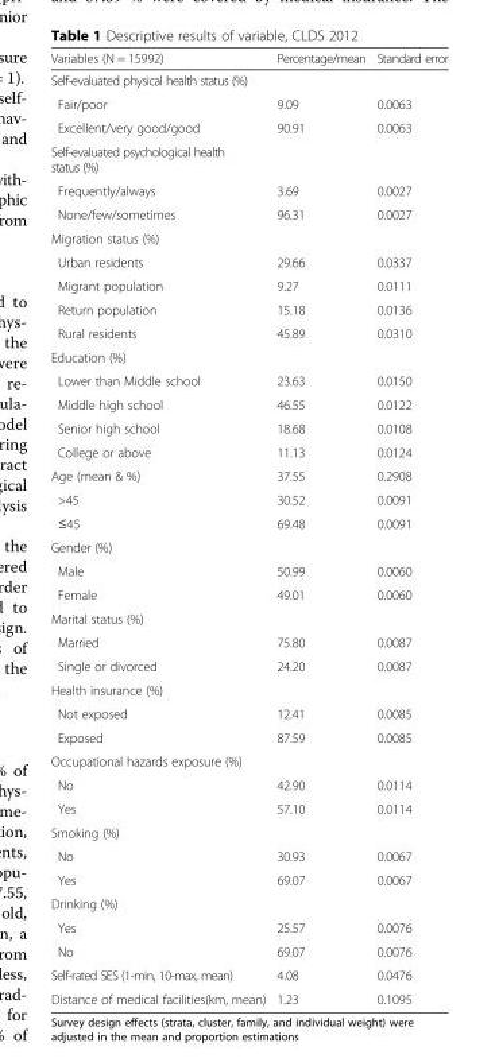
<table><thead><tr><td>Variables (N = 15992)</td><td>Percentage/mean</td><td>Standard error</td></tr></thead><tbody><tr><td colspan="3">Self-evaluated physical health status (%)</td></tr><tr><td>Fair/poor</td><td>9.09</td><td>0.0063</td></tr><tr><td>Excellent/very good/good</td><td>90.91</td><td>0.0063</td></tr><tr><td colspan="3">Self-evaluated psychological health status (%)</td></tr><tr><td>Frequently/always</td><td>3.69</td><td>0.0027</td></tr><tr><td>None/few/sometimes</td><td>96.31</td><td>0.0027</td></tr><tr><td colspan="3">Migration status (%)</td></tr><tr><td>Urban residents</td><td>29.66</td><td>0.0337</td></tr><tr><td>Migrant population</td><td>9.27</td><td>0.0111</td></tr><tr><td>Return population</td><td>15.18</td><td>0.0136</td></tr><tr><td>Rural residents</td><td>45.89</td><td>0.0310</td></tr><tr><td colspan="3">Education (%)</td></tr><tr><td>Lower than Middle school</td><td>23.63</td><td>0.0150</td></tr><tr><td>Middle high school</td><td>46.55</td><td>0.0122</td></tr><tr><td>Senior high school</td><td>18.68</td><td>0.0108</td></tr><tr><td>College or above</td><td>11.13</td><td>0.0124</td></tr><tr><td>Age (mean &amp; %)</td><td>37.55</td><td>0.2908</td></tr><tr><td>&gt;45</td><td>30.52</td><td>0.0091</td></tr><tr><td>≤45</td><td>69.48</td><td>0.0091</td></tr><tr><td colspan="3">Gender (%)</td></tr><tr><td>Male</td><td>50.99</td><td>0.0060</td></tr><tr><td>Female</td><td>49.01</td><td>0.0060</td></tr><tr><td colspan="3">Marital status (%)</td></tr><tr><td>Married</td><td>75.80</td><td>0.0087</td></tr><tr><td>Single or divorced</td><td>24.20</td><td>0.0087</td></tr><tr><td colspan="3">Health insurance (%)</td></tr><tr><td>Not exposed</td><td>12.41</td><td>0.0085</td></tr><tr><td>Exposed</td><td>87.59</td><td>0.0085</td></tr><tr><td colspan="3">Occupational hazards exposure (%)</td></tr><tr><td>No</td><td>42.90</td><td>0.0114</td></tr><tr><td>Yes</td><td>57.10</td><td>0.0114</td></tr><tr><td colspan="3">Smoking (%)</td></tr><tr><td>No</td><td>30.93</td><td>0.0067</td></tr><tr><td>Yes</td><td>69.07</td><td>0.0067</td></tr><tr><td colspan="3">Drinking (%)</td></tr><tr><td>Yes</td><td>25.57</td><td>0.0076</td></tr><tr><td>No</td><td>69.07</td><td>0.0076</td></tr><tr><td>Self-rated SES (1-min, 10-max, mean)</td><td>4.08</td><td>0.0476</td></tr><tr><td>Distance of medical facilities(km, mean)</td><td>1.23</td><td>0.1095</td></tr></tbody></table>